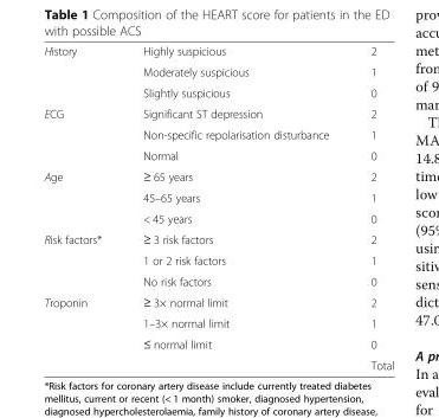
<table><tbody><tr><td rowspan="3">History</td><td>Highly suspicious</td><td>2</td></tr><tr><td>Moderately suspicious</td><td>1</td></tr><tr><td>Slightly suspicious</td><td>0</td></tr><tr><td rowspan="3">ECG</td><td>Significant ST depression</td><td>2</td></tr><tr><td>Non-specific repolarisation disturbance</td><td>1</td></tr><tr><td>Normal</td><td>0</td></tr><tr><td rowspan="3">Age</td><td>≥ 65 years</td><td>2</td></tr><tr><td>45–65 years</td><td>1</td></tr><tr><td>&lt; 45 years</td><td>0</td></tr><tr><td rowspan="3">Risk factors*</td><td>≥ 3 risk factors</td><td>2</td></tr><tr><td>1 or 2 risk factors</td><td>1</td></tr><tr><td>No risk factors</td><td>0</td></tr><tr><td rowspan="4">Troponin</td><td>≥ 3× normal limit</td><td>2</td></tr><tr><td>1–3× normal limit</td><td>1</td></tr><tr><td>≤ normal limit</td><td>0</td></tr><tr><td></td><td>Total</td></tr></tbody></table>